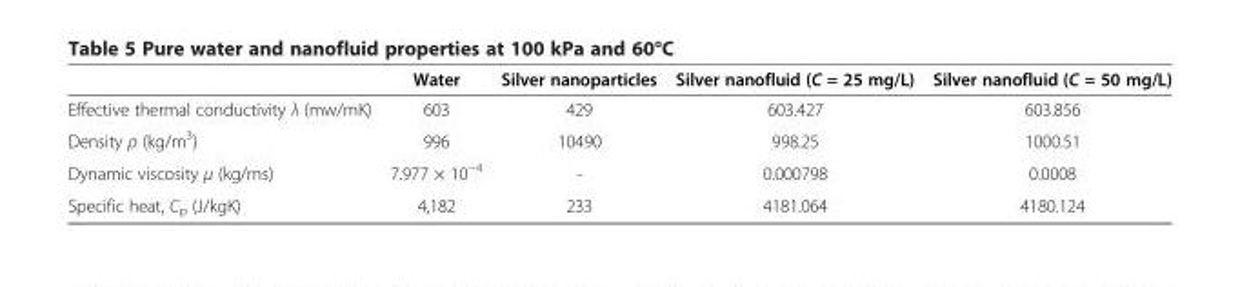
<table><thead><tr><td></td><td>Water</td><td>Silver nanoparticles</td><td>Silver nanofluid (C = 25 mg/L)</td><td>Silver nanofluid (C = 50 mg/L)</td></tr></thead><tbody><tr><td>Effective thermal conductivity λ (mw/mK)</td><td>603</td><td>429</td><td>603.427</td><td>603.856</td></tr><tr><td>Density ρ (kg/m<sup>3</sup>)</td><td>996</td><td>10490</td><td>998.25</td><td>1000.51</td></tr><tr><td>Dynamic viscosity μ (kg/ms)</td><td>7.977 × 10<sup>−4</sup></td><td>-</td><td>0.000798</td><td>0.0008</td></tr><tr><td>Specific heat, C<sub>p</sub> (J/kgK)</td><td>4,182</td><td>233</td><td>4181.064</td><td>4180.124</td></tr></tbody></table>